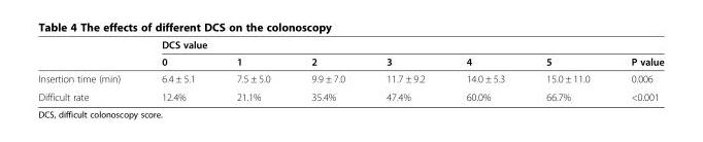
<table><thead><tr><td rowspan="2"></td><td colspan="7">DCS value</td></tr><tr><td>0</td><td>1</td><td>2</td><td>3</td><td>4</td><td>5</td><td>P value</td></tr></thead><tbody><tr><td>Insertion time (min)</td><td>6.4 ± 5.1</td><td>7.5 ± 5.0</td><td>9.9 ± 7.0</td><td>11.7 ± 9.2</td><td>14.0 ± 5.3</td><td>15.0 ± 11.0</td><td>0.006</td></tr><tr><td>Difficult rate</td><td>12.4%</td><td>21.1%</td><td>35.4%</td><td>47.4%</td><td>60.0%</td><td>66.7%</td><td>&lt;0.001</td></tr></tbody></table>